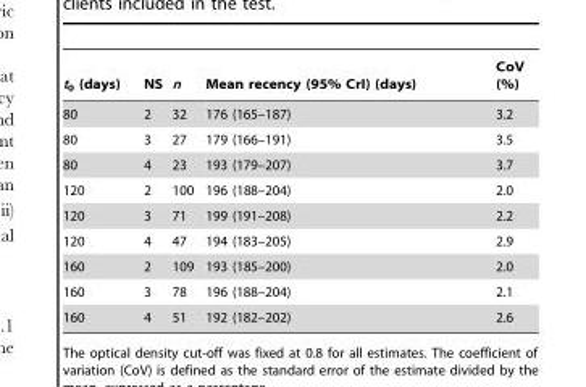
<table><thead><tr><td>t<sub>0</sub> (days)</td><td>NS</td><td>n</td><td>Mean recency (95% CrI) (days)</td><td>CoV (%)</td></tr></thead><tbody><tr><td>80</td><td>2</td><td>32</td><td>176 (165–187)</td><td>3.2</td></tr><tr><td>80</td><td>3</td><td>27</td><td>179 (166–191)</td><td>3.5</td></tr><tr><td>80</td><td>4</td><td>23</td><td>193 (179–207)</td><td>3.7</td></tr><tr><td>120</td><td>2</td><td>100</td><td>196 (188–204)</td><td>2.0</td></tr><tr><td>120</td><td>3</td><td>71</td><td>199 (191–208)</td><td>2.2</td></tr><tr><td>120</td><td>4</td><td>47</td><td>194 (183–205)</td><td>2.9</td></tr><tr><td>160</td><td>2</td><td>109</td><td>193 (185–200)</td><td>2.0</td></tr><tr><td>160</td><td>3</td><td>78</td><td>196 (188–204)</td><td>2.1</td></tr><tr><td>160</td><td>4</td><td>51</td><td>192 (182–202)</td><td>2.6</td></tr></tbody></table>